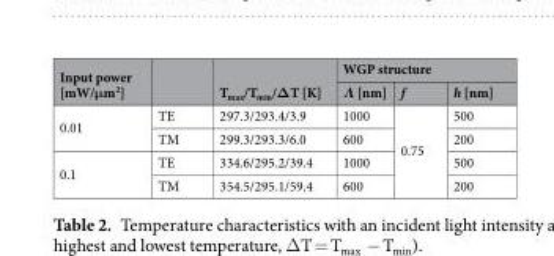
<table><thead><tr><td rowspan="2">Input power [mW/μm<sup>2</sup>]</td><td rowspan="2"></td><td rowspan="2">T<sub>max</sub>/T<sub>min</sub>/ΔT [K]</td><td colspan="3">WGP structure</td></tr><tr><td>Λ [nm]</td><td>f</td><td>h [nm]</td></tr></thead><tbody><tr><td rowspan="2">0.01</td><td>TE</td><td>297.3/293.4/3.9</td><td>1000</td><td rowspan="4">0.75</td><td>500</td></tr><tr><td>TM</td><td>299.3/293.3/6.0</td><td>600</td><td>200</td></tr><tr><td rowspan="2">0.1</td><td>TE</td><td>334.6/295.2/39.4</td><td>1000</td><td>500</td></tr><tr><td>TM</td><td>354.5/295.1/59.4</td><td>600</td><td>200</td></tr></tbody></table>